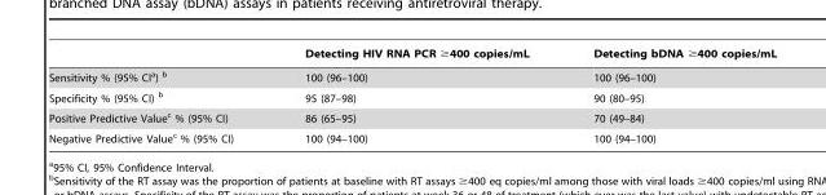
<table><thead><tr><td></td><td>Detecting HIV RNA PCR ≥400 copies/mL</td><td>Detecting bDNA ≥400 copies/mL</td></tr></thead><tbody><tr><td>Sensitivity % (95% CI<sup>a</sup>) b</td><td>100 (96–100)</td><td>100 (96–100)</td></tr><tr><td>Specificity % (95% CI) b</td><td>95 (87–98)</td><td>90 (80–95)</td></tr><tr><td>Positive Predictive Value<sup>c</sup> % (95% CI)</td><td>86 (65–95)</td><td>70 (49–84)</td></tr><tr><td>Negative Predictive Value<sup>c</sup> % (95% CI)</td><td>100 (94–100)</td><td>100 (94–100)</td></tr></tbody></table>